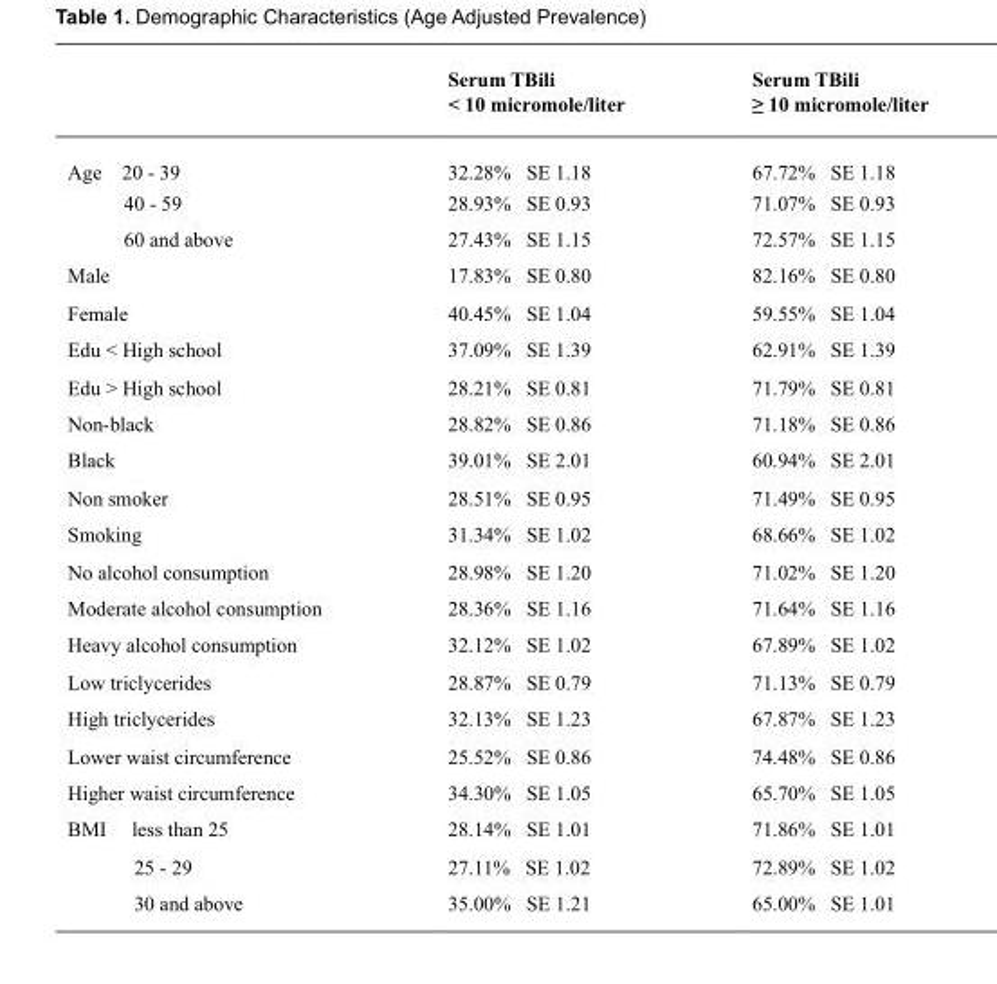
<table><thead><tr><td></td><td>Serum TBili &lt; 10 micromole/liter</td><td>Serum TBili ≥ 10 micromole/liter</td></tr></thead><tbody><tr><td>Age 20 - 39</td><td>32.28% SE 1.18</td><td>67.72% SE 1.18</td></tr><tr><td>40 - 59</td><td>28.93% SE 0.93</td><td>71.07% SE 0.93</td></tr><tr><td>60 and above</td><td>27.43% SE 1.15</td><td>72.57% SE 1.15</td></tr><tr><td>Male</td><td>17.83% SE 0.80</td><td>82.16% SE 0.80</td></tr><tr><td>Female</td><td>40.45% SE 1.04</td><td>59.55% SE 1.04</td></tr><tr><td>Edu &lt; High school</td><td>37.09% SE 1.39</td><td>62.91% SE 1.39</td></tr><tr><td>Edu &gt; High school</td><td>28.21% SE 0.81</td><td>71.79% SE 0.81</td></tr><tr><td>Non-black</td><td>28.82% SE 0.86</td><td>71.18% SE 0.86</td></tr><tr><td>Black</td><td>39.01% SE 2.01</td><td>60.94% SE 2.01</td></tr><tr><td>Non smoker</td><td>28.51% SE 0.95</td><td>71.49% SE 0.95</td></tr><tr><td>Smoking</td><td>31.34% SE 1.02</td><td>68.66% SE 1.02</td></tr><tr><td>No alcohol consumption</td><td>28.98% SE 1.20</td><td>71.02% SE 1.20</td></tr><tr><td>Moderate alcohol consumption</td><td>28.36% SE 1.16</td><td>71.64% SE 1.16</td></tr><tr><td>Heavy alcohol consumption</td><td>32.12% SE 1.02</td><td>67.89% SE 1.02</td></tr><tr><td>Low triclycerides</td><td>28.87% SE 0.79</td><td>71.13% SE 0.79</td></tr><tr><td>High triclycerides</td><td>32.13% SE 1.23</td><td>67.87% SE 1.23</td></tr><tr><td>Lower waist circumference</td><td>25.52% SE 0.86</td><td>74.48% SE 0.86</td></tr><tr><td>Higher waist circumference</td><td>34.30% SE 1.05</td><td>65.70% SE 1.05</td></tr><tr><td>BMI less than 25</td><td>28.14% SE 1.01</td><td>71.86% SE 1.01</td></tr><tr><td>25 - 29</td><td>27.11% SE 1.02</td><td>72.89% SE 1.02</td></tr><tr><td>30 and above</td><td>35.00% SE 1.21</td><td>65.00% SE 1.01</td></tr></tbody></table>